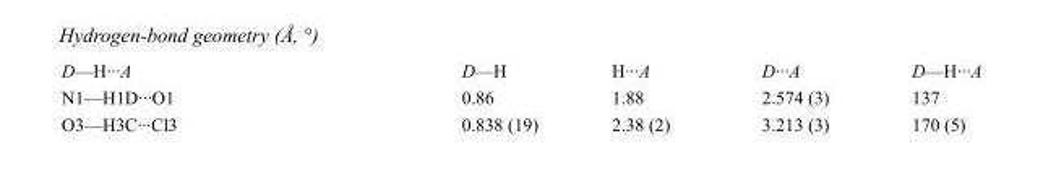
<table><tbody><tr><td>D—H···A</td><td>D—H</td><td>H···A</td><td>D···A</td><td>D—H···A</td></tr><tr><td>N1—H1D···O1</td><td>0.86</td><td>1.88</td><td>2.574 (3)</td><td>137</td></tr><tr><td>O3—H3C···Cl3</td><td>0.838 (19)</td><td>2.38 (2)</td><td>3.213 (3)</td><td>170 (5)</td></tr></tbody></table>